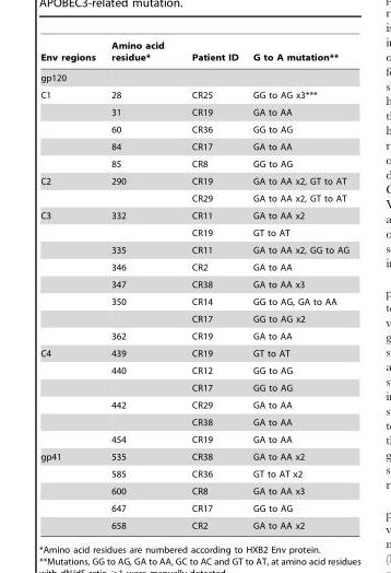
<table><thead><tr><td>Env regions</td><td>Amino acid residue*</td><td>Patient ID</td><td>G to A mutation**</td></tr></thead><tbody><tr><td colspan="4">gp120</td></tr><tr><td rowspan="5">C1</td><td>28</td><td>CR25</td><td>GG to AG x3***</td></tr><tr><td>31</td><td>CR19</td><td>GA to AA</td></tr><tr><td>60</td><td>CR36</td><td>GG to AG</td></tr><tr><td>84</td><td>CR17</td><td>GA to AA</td></tr><tr><td>85</td><td>CR8</td><td>GG to AG</td></tr><tr><td rowspan="2">C2</td><td>290</td><td>CR19</td><td>GA to AA x2, GT to AT</td></tr><tr><td></td><td>CR29</td><td>GA to AA x2, GT to AT</td></tr><tr><td rowspan="8">C3</td><td>332</td><td>CR11</td><td>GA to AA x2</td></tr><tr><td></td><td>CR19</td><td>GT to AT</td></tr><tr><td>335</td><td>CR11</td><td>GA to AA x2, GG to AG</td></tr><tr><td>346</td><td>CR2</td><td>GA to AA</td></tr><tr><td>347</td><td>CR38</td><td>GA to AA x3</td></tr><tr><td>350</td><td>CR14</td><td>GG to AG, GA to AA</td></tr><tr><td></td><td>CR17</td><td>GG to AG x2</td></tr><tr><td>362</td><td>CR19</td><td>GA to AA</td></tr><tr><td rowspan="6">C4</td><td>439</td><td>CR19</td><td>GT to AT</td></tr><tr><td>440</td><td>CR12</td><td>GG to AG</td></tr><tr><td></td><td>CR17</td><td>GG to AG</td></tr><tr><td>442</td><td>CR29</td><td>GA to AA</td></tr><tr><td></td><td>CR38</td><td>GA to AA</td></tr><tr><td>454</td><td>CR19</td><td>GA to AA</td></tr><tr><td rowspan="5">gp41</td><td>535</td><td>CR38</td><td>GA to AA x2</td></tr><tr><td>585</td><td>CR36</td><td>GT to AT x2</td></tr><tr><td>600</td><td>CR8</td><td>GA to AA x3</td></tr><tr><td>647</td><td>CR17</td><td>GG to AG</td></tr><tr><td>658</td><td>CR2</td><td>GA to AA x2</td></tr></tbody></table>